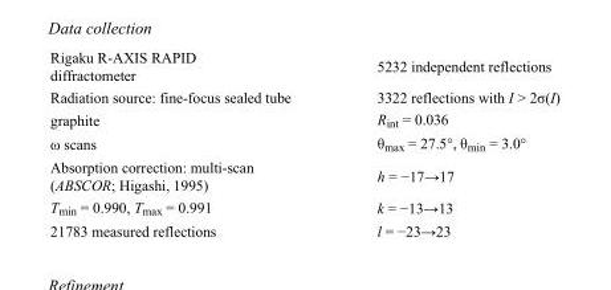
<table><tbody><tr><td>Rigaku R-AXIS RAPID diffractometer</td><td>5232 independent reflections</td></tr><tr><td>Radiation source: fine-focus sealed tube</td><td>3322 reflections with I &gt; 2σ(I)</td></tr><tr><td>graphite</td><td>R<sub>int</sub> = 0.036</td></tr><tr><td>ω scans</td><td>θ<sub>max</sub> = 27.5°, θ<sub>min</sub> = 3.0°</td></tr><tr><td>Absorption correction: multi-scan (ABSCOR; Higashi, 1995)</td><td>h = −17→17</td></tr><tr><td>T<sub>min</sub> = 0.990, T<sub>max</sub> = 0.991</td><td>k = −13→13</td></tr><tr><td>21783 measured reflections</td><td>l = −23→23</td></tr></tbody></table>